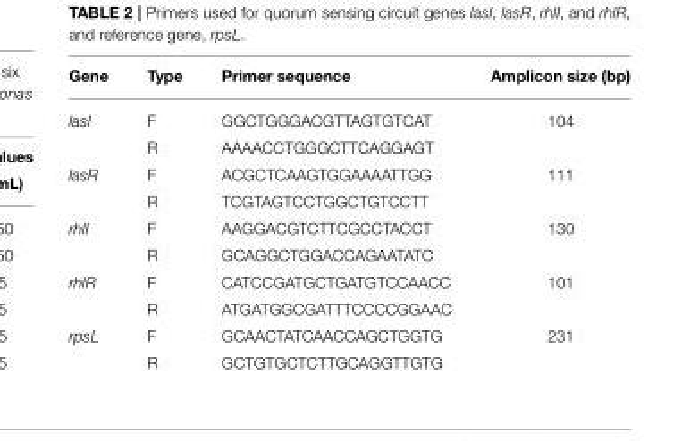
<table><thead><tr><td>Gene</td><td>Type</td><td>Primer sequence</td><td>Amplicon size (bp)</td></tr></thead><tbody><tr><td rowspan="2">lasI</td><td>F</td><td>GGCTGGGACGTTAGTGTCAT</td><td>104</td></tr><tr><td>R</td><td>AAAACCTGGGCTTCAGGAGT</td><td></td></tr><tr><td rowspan="2">lasR</td><td>F</td><td>ACGCTCAAGTGGAAAATTGG</td><td>111</td></tr><tr><td>R</td><td>TCGTAGTCCTGGCTGTCCTT</td><td></td></tr><tr><td rowspan="2">rhlI</td><td>F</td><td>AAGGACGTCTTCGCCTACCT</td><td>130</td></tr><tr><td>R</td><td>GCAGGCTGGACCAGAATATC</td><td></td></tr><tr><td rowspan="2">rhlR</td><td>F</td><td>CATCCGATGCTGATGTCCAACC</td><td>101</td></tr><tr><td>R</td><td>ATGATGGCGATTTCCCCGGAAC</td><td></td></tr><tr><td rowspan="2">rpsL</td><td>F</td><td>GCAACTATCAACCAGCTGGTG</td><td>231</td></tr><tr><td>R</td><td>GCTGTGCTCTTGCAGGTTGTG</td><td></td></tr></tbody></table>